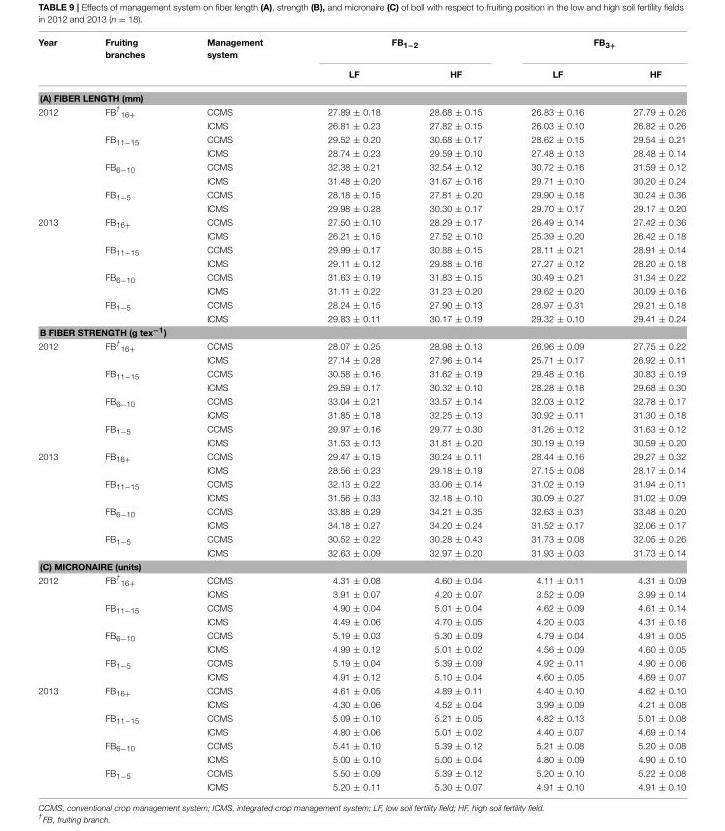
<table><thead><tr><td rowspan="2">Year</td><td rowspan="2">Fruiting branches</td><td rowspan="2">Management system</td><td colspan="2">FB<sub>1−2</sub></td><td colspan="2">FB<sub>3+</sub></td></tr><tr><td>LF</td><td>HF</td><td>LF</td><td>HF</td></tr></thead><tbody><tr><td colspan="7">(A) FIBER LENGTH (mm)</td></tr><tr><td rowspan="8">2012</td><td>FB<sup>†</sup> <sub>16+</sub></td><td>CCMS</td><td>27.89 ± 0.18</td><td>28.68 ± 0.15</td><td>26.83 ± 0.16</td><td>27.79 ± 0.26</td></tr><tr><td></td><td>ICMS</td><td>26.81 ± 0.23</td><td>27.82 ± 0.15</td><td>26.03 ± 0.10</td><td>26.82 ± 0.26</td></tr><tr><td>FB<sub>11−15</sub></td><td>CCMS</td><td>29.52 ± 0.20</td><td>30.68 ± 0.17</td><td>28.62 ± 0.15</td><td>29.54 ± 0.21</td></tr><tr><td></td><td>ICMS</td><td>28.74 ± 0.23</td><td>29.59 ± 0.10</td><td>27.48 ± 0.13</td><td>28.48 ± 0.14</td></tr><tr><td>FB<sub>6−10</sub></td><td>CCMS</td><td>32.38 ± 0.21</td><td>32.54 ± 0.12</td><td>30.72 ± 0.16</td><td>31.59 ± 0.12</td></tr><tr><td></td><td>ICMS</td><td>31.48 ± 0.20</td><td>31.67 ± 0.16</td><td>29.71 ± 0.10</td><td>30.20 ± 0.24</td></tr><tr><td>FB<sub>1−5</sub></td><td>CCMS</td><td>28.18 ± 0.15</td><td>27.81 ± 0.20</td><td>29.90 ± 0.18</td><td>30.24 ± 0.36</td></tr><tr><td></td><td>ICMS</td><td>29.98 ± 0.28</td><td>30.30 ± 0.17</td><td>29.70 ± 0.17</td><td>29.17 ± 0.20</td></tr><tr><td rowspan="8">2013</td><td>FB<sub>16+</sub></td><td>CCMS</td><td>27.50 ± 0.10</td><td>28.29 ± 0.17</td><td>26.49 ± 0.14</td><td>27.42 ± 0.36</td></tr><tr><td></td><td>ICMS</td><td>26.21 ± 0.15</td><td>27.52 ± 0.10</td><td>25.39 ± 0.20</td><td>26.42 ± 0.18</td></tr><tr><td>FB<sub>11−15</sub></td><td>CCMS</td><td>29.99 ± 0.17</td><td>30.88 ± 0.15</td><td>28.11 ± 0.21</td><td>28.91 ± 0.14</td></tr><tr><td></td><td>ICMS</td><td>29.11 ± 0.12</td><td>29.88 ± 0.16</td><td>27.27 ± 0.12</td><td>28.20 ± 0.18</td></tr><tr><td>FB<sub>6−10</sub></td><td>CCMS</td><td>31.63 ± 0.19</td><td>31.83 ± 0.15</td><td>30.49 ± 0.21</td><td>31.34 ± 0.22</td></tr><tr><td></td><td>ICMS</td><td>31.11 ± 0.22</td><td>31.23 ± 0.20</td><td>29.62 ± 0.20</td><td>30.09 ± 0.16</td></tr><tr><td>FB<sub>1−5</sub></td><td>CCMS</td><td>28.24 ± 0.15</td><td>27.90 ± 0.13</td><td>28.97 ± 0.31</td><td>29.21 ± 0.18</td></tr><tr><td></td><td>ICMS</td><td>29.83 ± 0.11</td><td>30.17 ± 0.19</td><td>29.32 ± 0.10</td><td>29.41 ± 0.24</td></tr><tr><td colspan="7">B FIBER STRENGTH (g tex<sup>−1</sup>)</td></tr><tr><td rowspan="8">2012</td><td>FB<sup>†</sup> <sub>16+</sub></td><td>CCMS</td><td>28.07 ± 0.25</td><td>28.98 ± 0.13</td><td>26.96 ± 0.09</td><td>27.75 ± 0.22</td></tr><tr><td></td><td>ICMS</td><td>27.14 ± 0.28</td><td>27.96 ± 0.14</td><td>25.71 ± 0.17</td><td>26.92 ± 0.11</td></tr><tr><td>FB<sub>11−15</sub></td><td>CCMS</td><td>30.58 ± 0.16</td><td>31.62 ± 0.19</td><td>29.48 ± 0.16</td><td>30.83 ± 0.19</td></tr><tr><td></td><td>ICMS</td><td>29.59 ± 0.17</td><td>30.32 ± 0.10</td><td>28.28 ± 0.18</td><td>29.68 ± 0.30</td></tr><tr><td>FB<sub>6−10</sub></td><td>CCMS</td><td>33.04 ± 0.21</td><td>33.57 ± 0.14</td><td>32.03 ± 0.12</td><td>32.78 ± 0.17</td></tr><tr><td></td><td>ICMS</td><td>31.85 ± 0.18</td><td>32.25 ± 0.13</td><td>30.92 ± 0.11</td><td>31.30 ± 0.18</td></tr><tr><td>FB<sub>1−5</sub></td><td>CCMS</td><td>29.97 ± 0.16</td><td>29.77 ± 0.30</td><td>31.26 ± 0.12</td><td>31.63 ± 0.12</td></tr><tr><td></td><td>ICMS</td><td>31.53 ± 0.13</td><td>31.81 ± 0.20</td><td>30.19 ± 0.19</td><td>30.59 ± 0.20</td></tr><tr><td rowspan="8">2013</td><td>FB<sub>16+</sub></td><td>CCMS</td><td>29.47 ± 0.15</td><td>30.24 ± 0.11</td><td>28.44 ± 0.16</td><td>29.27 ± 0.32</td></tr><tr><td></td><td>ICMS</td><td>28.56 ± 0.23</td><td>29.18 ± 0.19</td><td>27.15 ± 0.08</td><td>28.17 ± 0.14</td></tr><tr><td>FB<sub>11−15</sub></td><td>CCMS</td><td>32.13 ± 0.22</td><td>33.06 ± 0.14</td><td>31.02 ± 0.19</td><td>31.94 ± 0.11</td></tr><tr><td></td><td>ICMS</td><td>31.56 ± 0.33</td><td>32.18 ± 0.10</td><td>30.09 ± 0.27</td><td>31.02 ± 0.09</td></tr><tr><td>FB<sub>6−10</sub></td><td>CCMS</td><td>33.88 ± 0.29</td><td>34.21 ± 0.35</td><td>32.63 ± 0.31</td><td>33.48 ± 0.20</td></tr><tr><td></td><td>ICMS</td><td>34.18 ± 0.27</td><td>34.20 ± 0.24</td><td>31.52 ± 0.17</td><td>32.06 ± 0.17</td></tr><tr><td>FB<sub>1−5</sub></td><td>CCMS</td><td>30.52 ± 0.22</td><td>30.28 ± 0.43</td><td>31.73 ± 0.08</td><td>32.05 ± 0.26</td></tr><tr><td></td><td>ICMS</td><td>32.63 ± 0.09</td><td>32.97 ± 0.20</td><td>31.93 ± 0.03</td><td>31.73 ± 0.14</td></tr><tr><td colspan="7">(C) MICRONAIRE (units)</td></tr><tr><td rowspan="8">2012</td><td>FB<sup>†</sup> <sub>16+</sub></td><td>CCMS</td><td>4.31 ± 0.08</td><td>4.60 ± 0.04</td><td>4.11 ± 0.11</td><td>4.31 ± 0.09</td></tr><tr><td></td><td>ICMS</td><td>3.91 ± 0.07</td><td>4.20 ± 0.07</td><td>3.52 ± 0.09</td><td>3.99 ± 0.14</td></tr><tr><td>FB<sub>11−15</sub></td><td>CCMS</td><td>4.90 ± 0.04</td><td>5.01 ± 0.04</td><td>4.62 ± 0.09</td><td>4.61 ± 0.14</td></tr><tr><td></td><td>ICMS</td><td>4.49 ± 0.06</td><td>4.70 ± 0.05</td><td>4.20 ± 0.03</td><td>4.31 ± 0.16</td></tr><tr><td>FB<sub>6−10</sub></td><td>CCMS</td><td>5.19 ± 0.03</td><td>5.30 ± 0.09</td><td>4.79 ± 0.04</td><td>4.91 ± 0.05</td></tr><tr><td></td><td>ICMS</td><td>4.99 ± 0.12</td><td>5.01 ± 0.02</td><td>4.56 ± 0.09</td><td>4.60 ± 0.05</td></tr><tr><td>FB<sub>1−5</sub></td><td>CCMS</td><td>5.19 ± 0.04</td><td>5.39 ± 0.09</td><td>4.92 ± 0.11</td><td>4.90 ± 0.06</td></tr><tr><td></td><td>ICMS</td><td>4.91 ± 0.12</td><td>5.10 ± 0.04</td><td>4.60 ± 0.05</td><td>4.69 ± 0.07</td></tr><tr><td rowspan="8">2013</td><td>FB<sub>16+</sub></td><td>CCMS</td><td>4.61 ± 0.05</td><td>4.89 ± 0.11</td><td>4.40 ± 0.10</td><td>4.62 ± 0.10</td></tr><tr><td></td><td>ICMS</td><td>4.30 ± 0.06</td><td>4.52 ± 0.04</td><td>3.99 ± 0.09</td><td>4.21 ± 0.08</td></tr><tr><td>FB<sub>11−15</sub></td><td>CCMS</td><td>5.09 ± 0.10</td><td>5.21 ± 0.05</td><td>4.82 ± 0.13</td><td>5.01 ± 0.08</td></tr><tr><td></td><td>ICMS</td><td>4.80 ± 0.06</td><td>5.01 ± 0.02</td><td>4.40 ± 0.07</td><td>4.69 ± 0.14</td></tr><tr><td>FB<sub>6−10</sub></td><td>CCMS</td><td>5.41 ± 0.10</td><td>5.39 ± 0.12</td><td>5.21 ± 0.08</td><td>5.20 ± 0.08</td></tr><tr><td></td><td>ICMS</td><td>5.00 ± 0.10</td><td>5.00 ± 0.04</td><td>4.80 ± 0.09</td><td>4.90 ± 0.10</td></tr><tr><td>FB<sub>1−5</sub></td><td>CCMS</td><td>5.50 ± 0.09</td><td>5.39 ± 0.12</td><td>5.20 ± 0.10</td><td>5.22 ± 0.08</td></tr><tr><td></td><td>ICMS</td><td>5.20 ± 0.11</td><td>5.30 ± 0.07</td><td>4.91 ± 0.10</td><td>4.91 ± 0.10</td></tr></tbody></table>